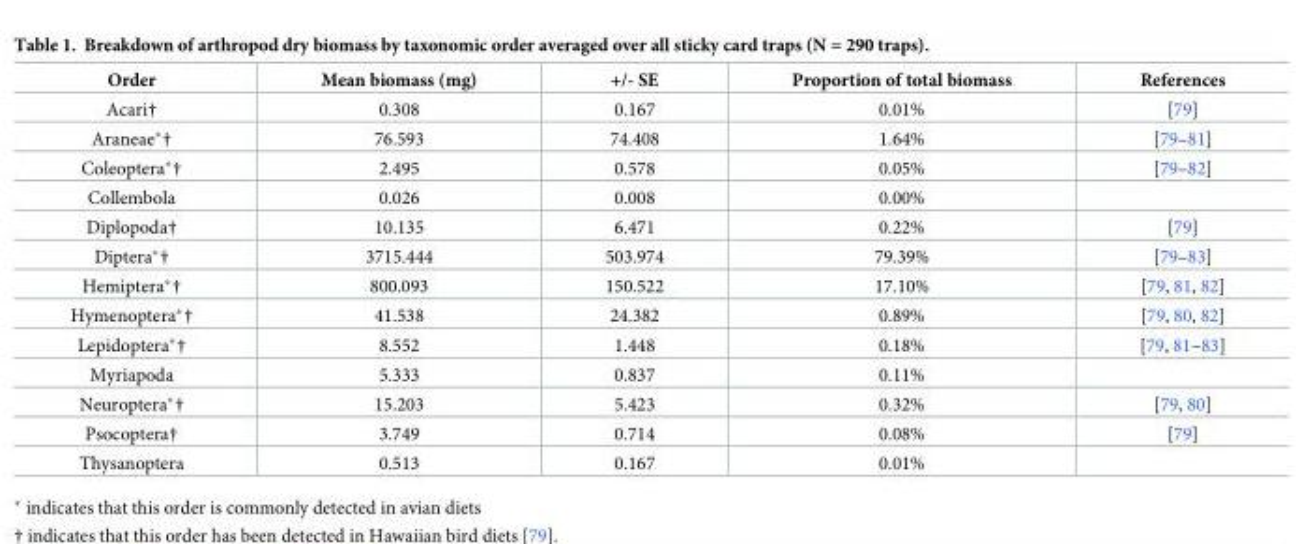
<table><thead><tr><td>Order</td><td>Mean biomass (mg)</td><td>+/- SE</td><td>Proportion of total biomass</td><td>References</td></tr></thead><tbody><tr><td>Acari†</td><td>0.308</td><td>0.167</td><td>0.01%</td><td>[79]</td></tr><tr><td>Araneae*†</td><td>76.593</td><td>74.408</td><td>1.64%</td><td>[79–81]</td></tr><tr><td>Coleoptera*†</td><td>2.495</td><td>0.578</td><td>0.05%</td><td>[79–82]</td></tr><tr><td>Collembola</td><td>0.026</td><td>0.008</td><td>0.00%</td><td></td></tr><tr><td>Diplopoda†</td><td>10.135</td><td>6.471</td><td>0.22%</td><td>[79]</td></tr><tr><td>Diptera*†</td><td>3715.444</td><td>503.974</td><td>79.39%</td><td>[79–83]</td></tr><tr><td>Hemiptera*†</td><td>800.093</td><td>150.522</td><td>17.10%</td><td>[79, 81, 82]</td></tr><tr><td>Hymenoptera*†</td><td>41.538</td><td>24.382</td><td>0.89%</td><td>[79, 80, 82]</td></tr><tr><td>Lepidoptera*†</td><td>8.552</td><td>1.448</td><td>0.18%</td><td>[79, 81–83]</td></tr><tr><td>Myriapoda</td><td>5.333</td><td>0.837</td><td>0.11%</td><td></td></tr><tr><td>Neuroptera*†</td><td>15.203</td><td>5.423</td><td>0.32%</td><td>[79, 80]</td></tr><tr><td>Psocoptera†</td><td>3.749</td><td>0.714</td><td>0.08%</td><td>[79]</td></tr><tr><td>Thysanoptera</td><td>0.513</td><td>0.167</td><td>0.01%</td><td></td></tr></tbody></table>